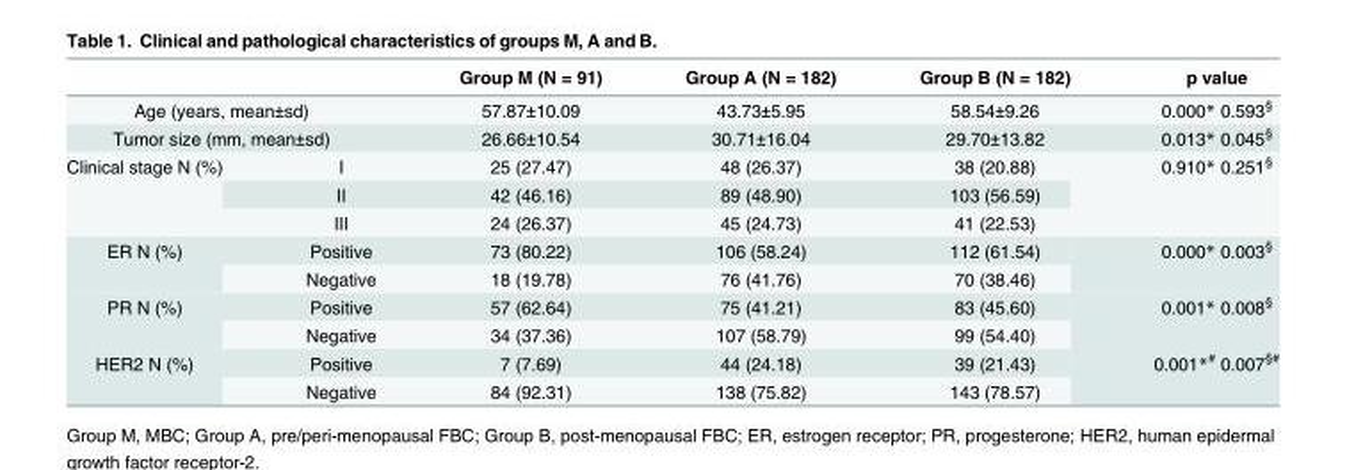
<table><thead><tr><td></td><td></td><td>Group M (N = 91)</td><td>Group A (N = 182)</td><td>Group B (N = 182)</td><td>p value</td></tr></thead><tbody><tr><td colspan="2">Age (years, mean±sd)</td><td>57.87±10.09</td><td>43.73±5.95</td><td>58.54±9.26</td><td>0.000* 0.593<sup>§</sup></td></tr><tr><td colspan="2">Tumor size (mm, mean±sd)</td><td>26.66±10.54</td><td>30.71±16.04</td><td>29.70±13.82</td><td>0.013* 0.045<sup>§</sup></td></tr><tr><td rowspan="3">Clinical stage N (%)</td><td>I</td><td>25 (27.47)</td><td>48 (26.37)</td><td>38 (20.88)</td><td rowspan="3">0.910* 0.251<sup>§</sup></td></tr><tr><td>II</td><td>42 (46.16)</td><td>89 (48.90)</td><td>103 (56.59)</td></tr><tr><td>III</td><td>24 (26.37)</td><td>45 (24.73)</td><td>41 (22.53)</td></tr><tr><td rowspan="2">ER N (%)</td><td>Positive</td><td>73 (80.22)</td><td>106 (58.24)</td><td>112 (61.54)</td><td rowspan="2">0.000* 0.003<sup>§</sup></td></tr><tr><td>Negative</td><td>18 (19.78)</td><td>76 (41.76)</td><td>70 (38.46)</td></tr><tr><td rowspan="2">PR N (%)</td><td>Positive</td><td>57 (62.64)</td><td>75 (41.21)</td><td>83 (45.60)</td><td rowspan="2">0.001* 0.008<sup>§</sup></td></tr><tr><td>Negative</td><td>34 (37.36)</td><td>107 (58.79)</td><td>99 (54.40)</td></tr><tr><td rowspan="2">HER2 N (%)</td><td>Positive</td><td>7 (7.69)</td><td>44 (24.18)</td><td>39 (21.43)</td><td rowspan="2">0.001*<sup>#</sup> 0.007<sup>§#</sup></td></tr><tr><td>Negative</td><td>84 (92.31)</td><td>138 (75.82)</td><td>143 (78.57)</td></tr></tbody></table>